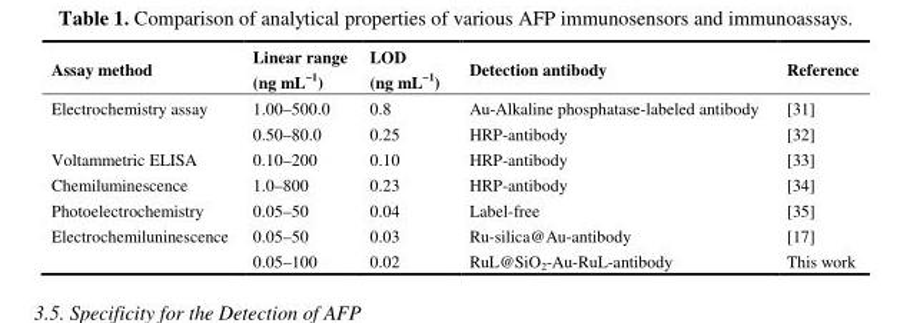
<table><thead><tr><td>Assay method</td><td>Linear range (ng mL<sup>−1</sup>)</td><td>LOD (ng mL<sup>−1</sup>)</td><td>Detection antibody</td><td>Reference</td></tr></thead><tbody><tr><td rowspan="2">Electrochemistry assay</td><td>1.00–500.0</td><td>0.8</td><td>Au-Alkaline phosphatase-labeled antibody</td><td>[31]</td></tr><tr><td>0.50–80.0</td><td>0.25</td><td>HRP-antibody</td><td>[32]</td></tr><tr><td>Voltammetric ELISA</td><td>0.10–200</td><td>0.10</td><td>HRP-antibody</td><td>[33]</td></tr><tr><td>Chemiluminescence</td><td>1.0–800</td><td>0.23</td><td>HRP-antibody</td><td>[34]</td></tr><tr><td>Photoelectrochemistry</td><td>0.05–50</td><td>0.04</td><td>Label-free</td><td>[35]</td></tr><tr><td rowspan="2">Electrochemiluninescence</td><td>0.05–50</td><td>0.03</td><td>Ru-silica@Au-antibody</td><td>[17]</td></tr><tr><td>0.05–100</td><td>0.02</td><td>RuL@SiO<sub>2</sub>-Au-RuL-antibody</td><td>This work</td></tr></tbody></table>